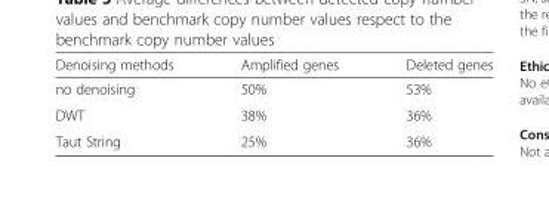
<table><thead><tr><td>Denoising methods</td><td>Amplified genes</td><td>Deleted genes</td></tr></thead><tbody><tr><td>no denoising</td><td>50%</td><td>53%</td></tr><tr><td>DWT</td><td>38%</td><td>36%</td></tr><tr><td>Taut String</td><td>25%</td><td>36%</td></tr></tbody></table>